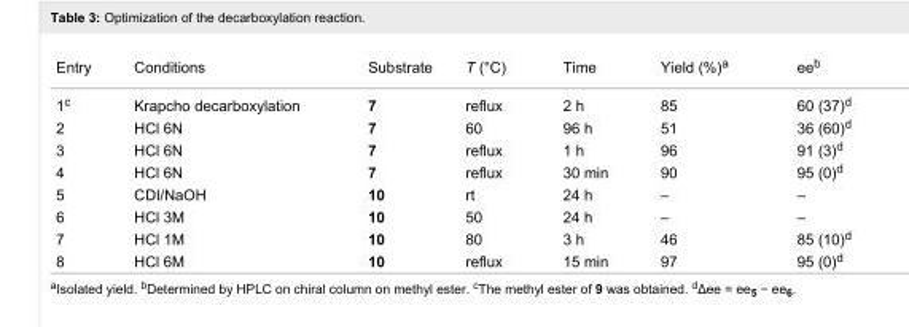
<table><tbody><tr><td>Entry</td><td>Conditions</td><td>Substrate</td><td>T (°C)</td><td>Time</td><td>Yield (%)<sup>a</sup></td><td>ee<sup>b</sup></td></tr><tr><td>1<sup>c</sup></td><td>Krapcho decarboxylation</td><td>7</td><td>reflux</td><td>2 h</td><td>85</td><td>60 (37)<sup>d</sup></td></tr><tr><td>2</td><td>HCl 6N</td><td>7</td><td>60</td><td>96 h</td><td>51</td><td>36 (60)<sup>d</sup></td></tr><tr><td>3</td><td>HCl 6N</td><td>7</td><td>reflux</td><td>1 h</td><td>96</td><td>91 (3)<sup>d</sup></td></tr><tr><td>4</td><td>HCl 6N</td><td>7</td><td>reflux</td><td>30 min</td><td>90</td><td>95 (0)<sup>d</sup></td></tr><tr><td>5</td><td>CDI/NaOH</td><td>10</td><td>rt</td><td>24 h</td><td>–</td><td>–</td></tr><tr><td>6</td><td>HCl 3M</td><td>10</td><td>50</td><td>24 h</td><td>–</td><td>–</td></tr><tr><td>7</td><td>HCl 1M</td><td>10</td><td>80</td><td>3 h</td><td>46</td><td>85 (10)<sup>d</sup></td></tr><tr><td>8</td><td>HCl 6M</td><td>10</td><td>reflux</td><td>15 min</td><td>97</td><td>95 (0)<sup>d</sup></td></tr></tbody></table>